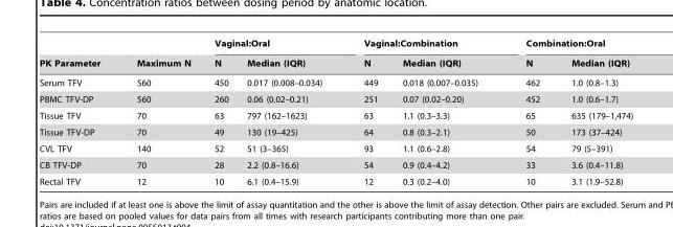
<table><thead><tr><td rowspan="2">PK Parameter</td><td rowspan="2">Maximum N</td><td colspan="2">Vaginal:Oral</td><td colspan="2">Vaginal:Combination</td><td colspan="2">Combination:Oral</td></tr><tr><td>N</td><td>Median (IQR)</td><td>N</td><td>Median (IQR)</td><td>N</td><td>Median (IQR)</td></tr></thead><tbody><tr><td>Serum TFV</td><td>560</td><td>450</td><td>0.017 (0.008–0.034)</td><td>449</td><td>0.018 (0.007–0.035)</td><td>462</td><td>1.0 (0.8–1.3)</td></tr><tr><td>PBMC TFV-DP</td><td>560</td><td>260</td><td>0.06 (0.02–0.21)</td><td>251</td><td>0.07 (0.02–0.20)</td><td>452</td><td>1.0 (0.6–1.7)</td></tr><tr><td>Tissue TFV</td><td>70</td><td>63</td><td>797 (162–1623)</td><td>63</td><td>1.1 (0.3–3.3)</td><td>65</td><td>635 (179–1,474)</td></tr><tr><td>Tissue TFV-DP</td><td>70</td><td>49</td><td>130 (19–425)</td><td>64</td><td>0.8 (0.3–2.1)</td><td>50</td><td>173 (37–424)</td></tr><tr><td>CVL TFV</td><td>140</td><td>52</td><td>51 (3–365)</td><td>93</td><td>1.1 (0.6–2.8)</td><td>54</td><td>79 (5–391)</td></tr><tr><td>CB TFV-DP</td><td>70</td><td>28</td><td>2.2 (0.8–16.6)</td><td>54</td><td>0.9 (0.4–4.2)</td><td>33</td><td>3.6 (0.4–11.8)</td></tr><tr><td>Rectal TFV</td><td>12</td><td>10</td><td>6.1 (0.4–15.9)</td><td>12</td><td>0.3 (0.2–4.0)</td><td>10</td><td>3.1 (1.9–52.8)</td></tr></tbody></table>